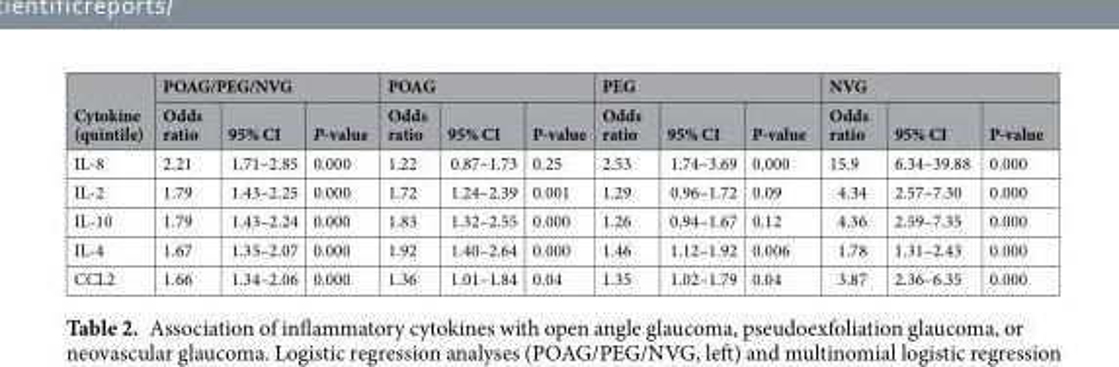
<table><thead><tr><td rowspan="2">Cytokine (quintile)</td><td colspan="3">POAG/PEG/NVG</td><td colspan="3">POAG</td><td colspan="3">PEG</td><td colspan="3">NVG</td></tr><tr><td>Odds ratio</td><td>95% CI</td><td>P-value</td><td>Odds ratio</td><td>95% CI</td><td>P-value</td><td>Odds ratio</td><td>95% CI</td><td>P-value</td><td>Odds ratio</td><td>95% CI</td><td>P-value</td></tr></thead><tbody><tr><td>IL-8</td><td>2.21</td><td>1.71–2.85</td><td>0.000</td><td>1.22</td><td>0.87–1.73</td><td>0.25</td><td>2.53</td><td>1.74–3.69</td><td>0.000</td><td>15.9</td><td>6.34–39.88</td><td>0.000</td></tr><tr><td>IL-2</td><td>1.79</td><td>1.43–2.25</td><td>0.000</td><td>1.72</td><td>1.24–2.39</td><td>0.001</td><td>1.29</td><td>0.96–1.72</td><td>0.09</td><td>4.34</td><td>2.57–7.30</td><td>0.000</td></tr><tr><td>IL-10</td><td>1.79</td><td>1.43–2.24</td><td>0.000</td><td>1.83</td><td>1.32–2.55</td><td>0.000</td><td>1.26</td><td>0.94–1.67</td><td>0.12</td><td>4.36</td><td>2.59–7.35</td><td>0.000</td></tr><tr><td>IL-4</td><td>1.67</td><td>1.35–2.07</td><td>0.000</td><td>1.92</td><td>1.40–2.64</td><td>0.000</td><td>1.46</td><td>1.12–1.92</td><td>0.006</td><td>1.78</td><td>1.31–2.43</td><td>0.000</td></tr><tr><td>CCL2</td><td>1.66</td><td>1.34–2.06</td><td>0.000</td><td>1.36</td><td>1.01–1.84</td><td>0.04</td><td>1.35</td><td>1.02–1.79</td><td>0.04</td><td>3.87</td><td>2.36–6.35</td><td>0.000</td></tr></tbody></table>